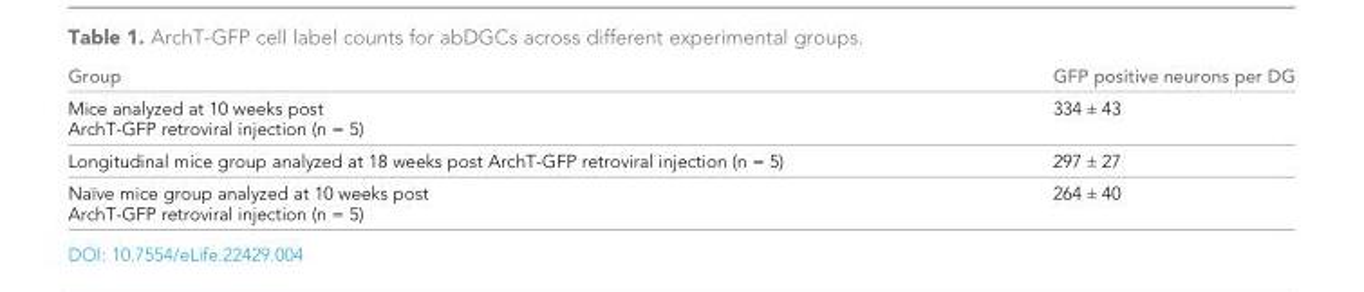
<table><thead><tr><td>Group</td><td>GFP positive neurons per DG</td></tr></thead><tbody><tr><td>Mice analyzed at 10 weeks post ArchT-GFP retroviral injection (n = 5)</td><td>334 ± 43</td></tr><tr><td>Longitudinal mice group analyzed at 18 weeks post ArchT-GFP retroviral injection (n = 5)</td><td>297 ± 27</td></tr><tr><td>Naı¨ve mice group analyzed at 10 weeks post ArchT-GFP retroviral injection (n = 5)</td><td>264 ± 40</td></tr></tbody></table>